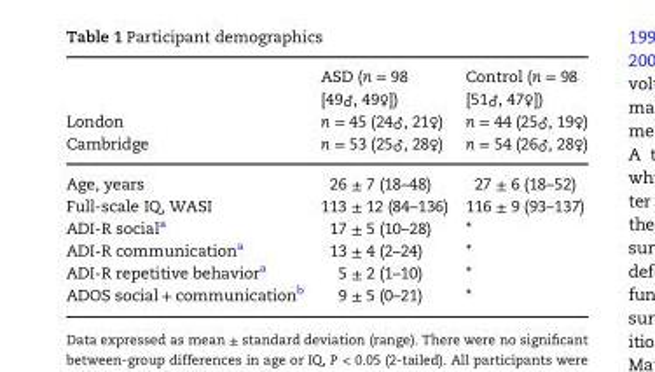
<table><thead><tr><td rowspan="3">London Cambridge</td><td rowspan="3">ASD (n = 98 [49♂, 49♀]) n = 45 (24♂, 21♀) n = 53 (25♂, 28♀)</td><td rowspan="3">Control (n = 98 [51♂, 47♀]) n = 44 (25♂, 19♀) n = 54 (26♂, 28♀)</td></tr><tr></tr><tr></tr></thead><tbody><tr><td>Age, years</td><td>26 ± 7 (18–48)</td><td>27 ± 6 (18–52)</td></tr><tr><td>Full-scale IQ, WASI</td><td>113 ± 12 (84–136)</td><td>116 ± 9 (93–137)</td></tr><tr><td>ADI-R social<sup>a</sup></td><td>17 ± 5 (10–28)</td><td>*</td></tr><tr><td>ADI-R communication<sup>a</sup></td><td>13 ± 4 (2–24)</td><td>*</td></tr><tr><td>ADI-R repetitive behavior<sup>a</sup></td><td>5 ± 2 (1–10)</td><td>*</td></tr><tr><td>ADOS social + communication<sup>b</sup></td><td>9 ± 5 (0–21)</td><td>*</td></tr></tbody></table>